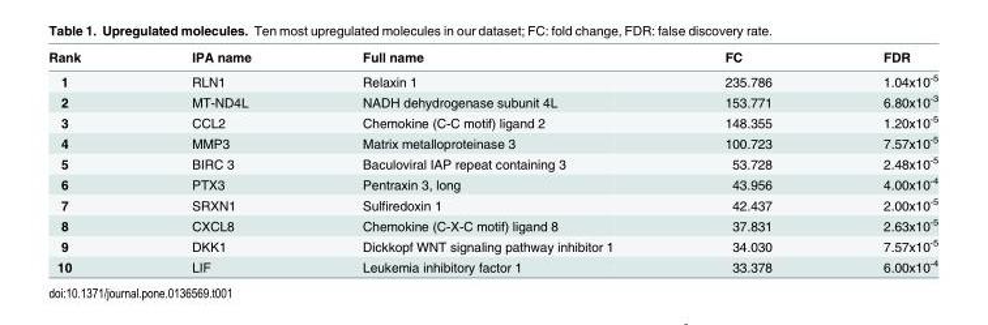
<table><thead><tr><td>Rank</td><td>IPA name</td><td>Full name</td><td>FC</td><td>FDR</td></tr></thead><tbody><tr><td>1</td><td>RLN1</td><td>Relaxin 1</td><td>235.786</td><td>1.04x10<sup>-5</sup></td></tr><tr><td>2</td><td>MT-ND4L</td><td>NADH dehydrogenase subunit 4L</td><td>153.771</td><td>6.80x10<sup>-3</sup></td></tr><tr><td>3</td><td>CCL2</td><td>Chemokine (C-C motif) ligand 2</td><td>148.355</td><td>1.20x10<sup>-5</sup></td></tr><tr><td>4</td><td>MMP3</td><td>Matrix metalloproteinase 3</td><td>100.723</td><td>7.57x10<sup>-5</sup></td></tr><tr><td>5</td><td>BIRC 3</td><td>Baculoviral IAP repeat containing 3</td><td>53.728</td><td>2.48x10<sup>-5</sup></td></tr><tr><td>6</td><td>PTX3</td><td>Pentraxin 3, long</td><td>43.956</td><td>4.00x10<sup>-4</sup></td></tr><tr><td>7</td><td>SRXN1</td><td>Sulfiredoxin 1</td><td>42.437</td><td>2.00x10<sup>-5</sup></td></tr><tr><td>8</td><td>CXCL8</td><td>Chemokine (C-X-C motif) ligand 8</td><td>37.831</td><td>2.63x10<sup>-5</sup></td></tr><tr><td>9</td><td>DKK1</td><td>Dickkopf WNT signaling pathway inhibitor 1</td><td>34.030</td><td>7.57x10<sup>-5</sup></td></tr><tr><td>10</td><td>LIF</td><td>Leukemia inhibitory factor 1</td><td>33.378</td><td>6.00x10<sup>-4</sup></td></tr></tbody></table>